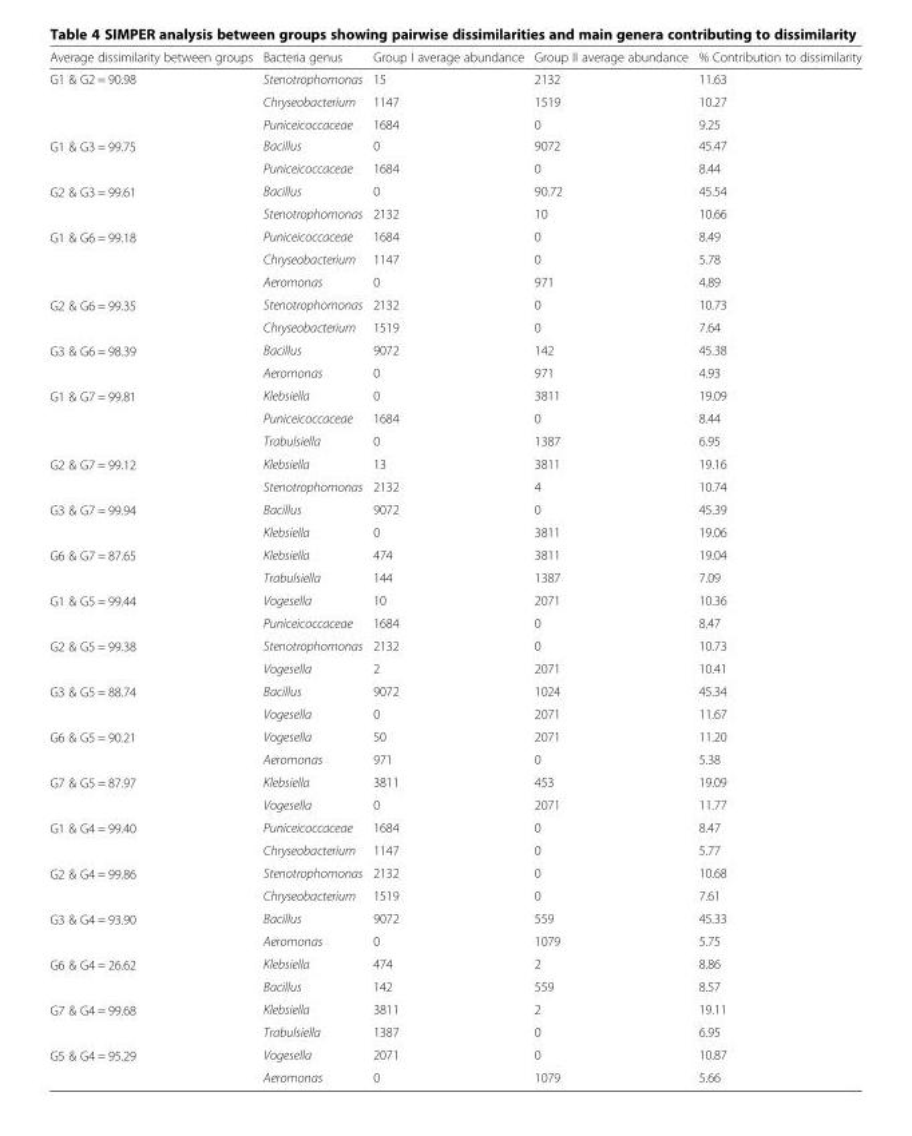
<table><thead><tr><td>Average dissimilarity between groups</td><td>Bacteria genus</td><td>Group I average abundance</td><td>Group II average abundance</td><td>% Contribution to dissimilarity</td></tr></thead><tbody><tr><td rowspan="3">G1 &amp; G2 = 90.98</td><td>Stenotrophomonas</td><td>15</td><td>2132</td><td>11.63</td></tr><tr><td>Chryseobacterium</td><td>1147</td><td>1519</td><td>10.27</td></tr><tr><td>Puniceicoccaceae</td><td>1684</td><td>0</td><td>9.25</td></tr><tr><td rowspan="2">G1 &amp; G3 = 99.75</td><td>Bacillus</td><td>0</td><td>9072</td><td>45.47</td></tr><tr><td>Puniceicoccaceae</td><td>1684</td><td>0</td><td>8.44</td></tr><tr><td rowspan="2">G2 &amp; G3 = 99.61</td><td>Bacillus</td><td>0</td><td>90.72</td><td>45.54</td></tr><tr><td>Stenotrophomonas</td><td>2132</td><td>10</td><td>10.66</td></tr><tr><td rowspan="3">G1 &amp; G6 = 99.18</td><td>Puniceicoccaceae</td><td>1684</td><td>0</td><td>8.49</td></tr><tr><td>Chryseobacterium</td><td>1147</td><td>0</td><td>5.78</td></tr><tr><td>Aeromonas</td><td>0</td><td>971</td><td>4.89</td></tr><tr><td rowspan="2">G2 &amp; G6 = 99.35</td><td>Stenotrophomonas</td><td>2132</td><td>0</td><td>10.73</td></tr><tr><td>Chryseobacterium</td><td>1519</td><td>0</td><td>7.64</td></tr><tr><td rowspan="2">G3 &amp; G6 = 98.39</td><td>Bacillus</td><td>9072</td><td>142</td><td>45.38</td></tr><tr><td>Aeromonas</td><td>0</td><td>971</td><td>4.93</td></tr><tr><td rowspan="3">G1 &amp; G7 = 99.81</td><td>Klebsiella</td><td>0</td><td>3811</td><td>19.09</td></tr><tr><td>Puniceicoccaceae</td><td>1684</td><td>0</td><td>8.44</td></tr><tr><td>Trabulsiella</td><td>0</td><td>1387</td><td>6.95</td></tr><tr><td rowspan="2">G2 &amp; G7 = 99.12</td><td>Klebsiella</td><td>13</td><td>3811</td><td>19.16</td></tr><tr><td>Stenotrophomonas</td><td>2132</td><td>4</td><td>10.74</td></tr><tr><td rowspan="2">G3 &amp; G7 = 99.94</td><td>Bacillus</td><td>9072</td><td>0</td><td>45.39</td></tr><tr><td>Klebsiella</td><td>0</td><td>3811</td><td>19.06</td></tr><tr><td rowspan="2">G6 &amp; G7 = 87.65</td><td>Klebsiella</td><td>474</td><td>3811</td><td>19.04</td></tr><tr><td>Trabulsiella</td><td>144</td><td>1387</td><td>7.09</td></tr><tr><td rowspan="2">G1 &amp; G5 = 99.44</td><td>Vogesella</td><td>10</td><td>2071</td><td>10.36</td></tr><tr><td>Puniceicoccaceae</td><td>1684</td><td>0</td><td>8.47</td></tr><tr><td rowspan="2">G2 &amp; G5 = 99.38</td><td>Stenotrophomonas</td><td>2132</td><td>0</td><td>10.73</td></tr><tr><td>Vogesella</td><td>2</td><td>2071</td><td>10.41</td></tr><tr><td rowspan="2">G3 &amp; G5 = 88.74</td><td>Bacillus</td><td>9072</td><td>1024</td><td>45.34</td></tr><tr><td>Vogesella</td><td>0</td><td>2071</td><td>11.67</td></tr><tr><td rowspan="2">G6 &amp; G5 = 90.21</td><td>Vogesella</td><td>50</td><td>2071</td><td>11.20</td></tr><tr><td>Aeromonas</td><td>971</td><td>0</td><td>5.38</td></tr><tr><td rowspan="2">G7 &amp; G5 = 87.97</td><td>Klebsiella</td><td>3811</td><td>453</td><td>19.09</td></tr><tr><td>Vogesella</td><td>0</td><td>2071</td><td>11.77</td></tr><tr><td rowspan="2">G1 &amp; G4 = 99.40</td><td>Puniceicoccaceae</td><td>1684</td><td>0</td><td>8.47</td></tr><tr><td>Chryseobacterium</td><td>1147</td><td>0</td><td>5.77</td></tr><tr><td rowspan="2">G2 &amp; G4 = 99.86</td><td>Stenotrophomonas</td><td>2132</td><td>0</td><td>10.68</td></tr><tr><td>Chryseobacterium</td><td>1519</td><td>0</td><td>7.61</td></tr><tr><td rowspan="2">G3 &amp; G4 = 93.90</td><td>Bacillus</td><td>9072</td><td>559</td><td>45.33</td></tr><tr><td>Aeromonas</td><td>0</td><td>1079</td><td>5.75</td></tr><tr><td rowspan="2">G6 &amp; G4 = 26.62</td><td>Klebsiella</td><td>474</td><td>2</td><td>8.86</td></tr><tr><td>Bacillus</td><td>142</td><td>559</td><td>8.57</td></tr><tr><td rowspan="2">G7 &amp; G4 = 99.68</td><td>Klebsiella</td><td>3811</td><td>2</td><td>19.11</td></tr><tr><td>Trabulsiella</td><td>1387</td><td>0</td><td>6.95</td></tr><tr><td rowspan="2">G5 &amp; G4 = 95.29</td><td>Vogesella</td><td>2071</td><td>0</td><td>10.87</td></tr><tr><td>Aeromonas</td><td>0</td><td>1079</td><td>5.66</td></tr></tbody></table>